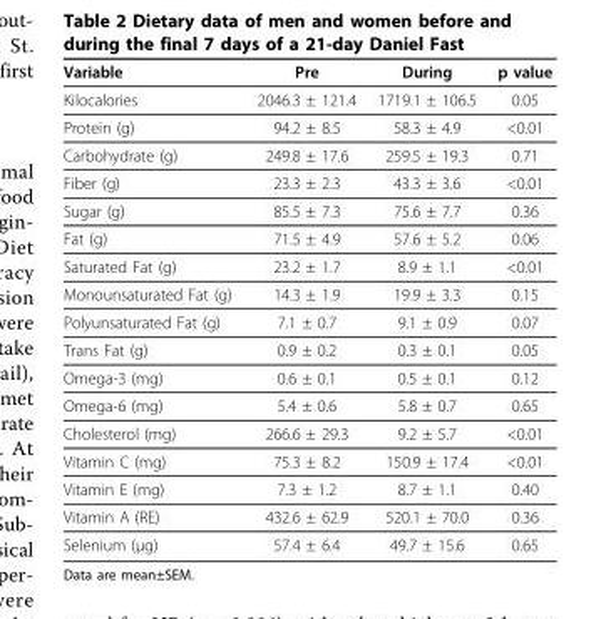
<table><thead><tr><td>Variable</td><td>Pre</td><td>During</td><td>p value</td></tr></thead><tbody><tr><td>Kilocalories</td><td>2046.3 ± 121.4</td><td>1719.1 ± 106.5</td><td>0.05</td></tr><tr><td>Protein (g)</td><td>94.2 ± 8.5</td><td>58.3 ± 4.9</td><td>&lt;0.01</td></tr><tr><td>Carbohydrate (g)</td><td>249.8 ± 17.6</td><td>259.5 ± 19.3</td><td>0.71</td></tr><tr><td>Fiber (g)</td><td>23.3 ± 2.3</td><td>43.3 ± 3.6</td><td>&lt;0.01</td></tr><tr><td>Sugar (g)</td><td>85.5 ± 7.3</td><td>75.6 ± 7.7</td><td>0.36</td></tr><tr><td>Fat (g)</td><td>71.5 ± 4.9</td><td>57.6 ± 5.2</td><td>0.06</td></tr><tr><td>Saturated Fat (g)</td><td>23.2 ± 1.7</td><td>8.9 ± 1.1</td><td>&lt;0.01</td></tr><tr><td>Monounsaturated Fat (g)</td><td>14.3 ± 1.9</td><td>19.9 ± 3.3</td><td>0.15</td></tr><tr><td>Polyunsaturated Fat (g)</td><td>7.1 ± 0.7</td><td>9.1 ± 0.9</td><td>0.07</td></tr><tr><td>Trans Fat (g)</td><td>0.9 ± 0.2</td><td>0.3 ± 0.1</td><td>0.05</td></tr><tr><td>Omega-3 (mg)</td><td>0.6 ± 0.1</td><td>0.5 ± 0.1</td><td>0.12</td></tr><tr><td>Omega-6 (mg)</td><td>5.4 ± 0.6</td><td>5.8 ± 0.7</td><td>0.65</td></tr><tr><td>Cholesterol (mg)</td><td>266.6 ± 29.3</td><td>9.2 ± 5.7</td><td>&lt;0.01</td></tr><tr><td>Vitamin C (mg)</td><td>75.3 ± 8.2</td><td>150.9 ± 17.4</td><td>&lt;0.01</td></tr><tr><td>Vitamin E (mg)</td><td>7.3 ± 1.2</td><td>8.7 ± 1.1</td><td>0.40</td></tr><tr><td>Vitamin A (RE)</td><td>432.6 ± 62.9</td><td>520.1 ± 70.0</td><td>0.36</td></tr><tr><td>Selenium (μg)</td><td>57.4 ± 6.4</td><td>49.7 ± 15.6</td><td>0.65</td></tr></tbody></table>